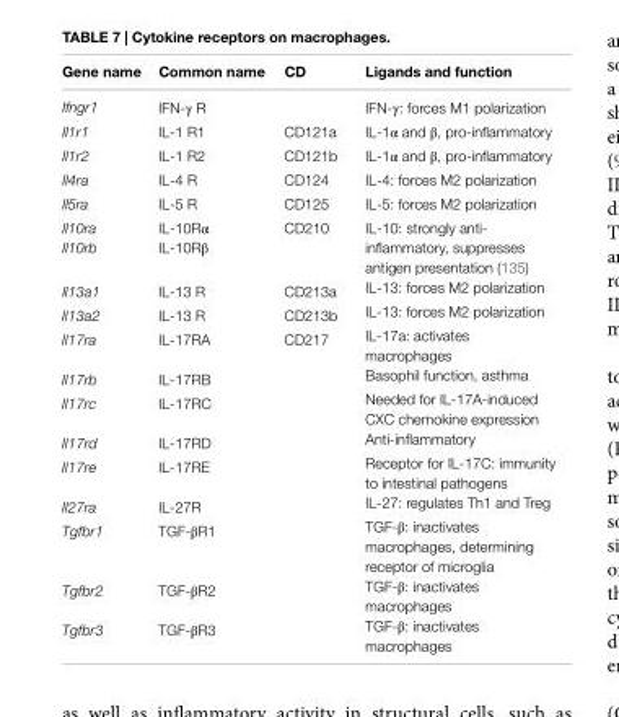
<table><thead><tr><td>Gene name</td><td>Common name</td><td>CD</td><td>Ligands and function</td></tr></thead><tbody><tr><td>Ifngr1</td><td>IFN-γ R</td><td></td><td>IFN-γ: forces M1 polarization</td></tr><tr><td>Il1r1</td><td>IL-1 R1</td><td>CD121a</td><td>IL-1α and β, pro-inflammatory</td></tr><tr><td>Il1r2</td><td>IL-1 R2</td><td>CD121b</td><td>IL-1α and β, pro-inflammatory</td></tr><tr><td>Il4ra</td><td>IL-4 R</td><td>CD124</td><td>IL-4: forces M2 polarization</td></tr><tr><td>Il5ra</td><td>IL-5 R</td><td>CD125</td><td>IL-5: forces M2 polarization</td></tr><tr><td>Il10ra Il10rb</td><td>IL-10Rα IL-10Rβ</td><td>CD210</td><td>IL-10: strongly anti- inflammatory, suppresses antigen presentation (135)</td></tr><tr><td>Il13a1</td><td>IL-13 R</td><td>CD213a</td><td>IL-13: forces M2 polarization</td></tr><tr><td>Il13a2</td><td>IL-13 R</td><td>CD213b</td><td>IL-13: forces M2 polarization</td></tr><tr><td>Il17ra</td><td>IL-17RA</td><td>CD217</td><td>IL-17a: activates macrophages</td></tr><tr><td>Il17rb</td><td>IL-17RB</td><td></td><td>Basophil function, asthma</td></tr><tr><td>Il17rc</td><td>IL-17RC</td><td></td><td>Needed for IL-17A-induced CXC chemokine expression</td></tr><tr><td>Il17rd</td><td>IL-17RD</td><td></td><td>Anti-inflammatory</td></tr><tr><td>Il17re</td><td>IL-17RE</td><td></td><td>Receptor for IL-17C: immunity to intestinal pathogens</td></tr><tr><td>Il27ra</td><td>IL-27R</td><td></td><td>IL-27: regulates Th1 and Treg</td></tr><tr><td>Tgfbr1</td><td>TGF-βR1</td><td></td><td>TGF-β: inactivates macrophages, determining receptor of microglia</td></tr><tr><td>Tgfbr2</td><td>TGF-βR2</td><td></td><td>TGF-β: inactivates macrophages</td></tr><tr><td>Tgfbr3</td><td>TGF-βR3</td><td></td><td>TGF-β: inactivates macrophages</td></tr></tbody></table>